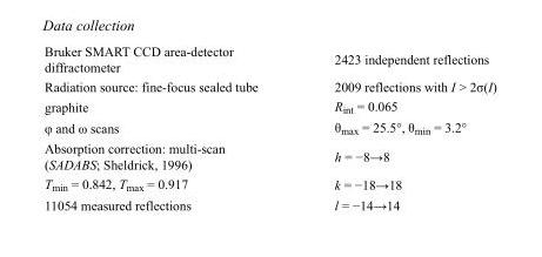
<table><tbody><tr><td>Bruker SMART CCD area-detector diffractometer</td><td>2423 independent reflections</td></tr><tr><td>Radiation source: fine-focus sealed tube</td><td>2009 reflections with I &gt; 2σ(I)</td></tr><tr><td>graphite</td><td>R<sub>int</sub> = 0.065</td></tr><tr><td>φ and ω scans</td><td>θ<sub>max</sub> = 25.5°, θ<sub>min</sub> = 3.2°</td></tr><tr><td>Absorption correction: multi-scan (SADABS; Sheldrick, 1996)</td><td>h = −8→8</td></tr><tr><td>T<sub>min</sub> = 0.842, T<sub>max</sub> = 0.917</td><td>k = −18→18</td></tr><tr><td>11054 measured reflections</td><td>l = −14→14</td></tr></tbody></table>